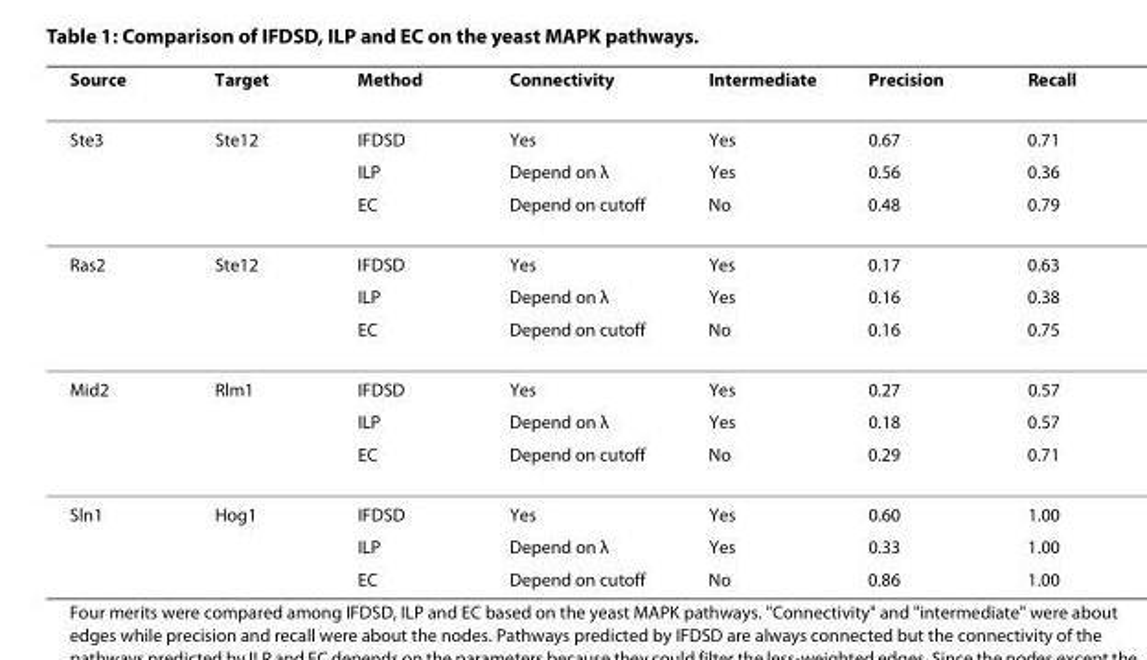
<table><thead><tr><td>Source</td><td>Target</td><td>Method</td><td>Connectivity</td><td>Intermediate</td><td>Precision</td><td>Recall</td></tr></thead><tbody><tr><td rowspan="3">Ste3</td><td>Ste12</td><td>IFDSD</td><td>Yes</td><td>Yes</td><td>0.67</td><td>0.71</td></tr><tr><td></td><td>ILP</td><td>Depend on λ</td><td>Yes</td><td>0.56</td><td>0.36</td></tr><tr><td></td><td>EC</td><td>Depend on cutoff</td><td>No</td><td>0.48</td><td>0.79</td></tr><tr><td rowspan="3">Ras2</td><td>Ste12</td><td>IFDSD</td><td>Yes</td><td>Yes</td><td>0.17</td><td>0.63</td></tr><tr><td></td><td>ILP</td><td>Depend on λ</td><td>Yes</td><td>0.16</td><td>0.38</td></tr><tr><td></td><td>EC</td><td>Depend on cutoff</td><td>No</td><td>0.16</td><td>0.75</td></tr><tr><td rowspan="3">Mid2</td><td>Rlm1</td><td>IFDSD</td><td>Yes</td><td>Yes</td><td>0.27</td><td>0.57</td></tr><tr><td></td><td>ILP</td><td>Depend on λ</td><td>Yes</td><td>0.18</td><td>0.57</td></tr><tr><td></td><td>EC</td><td>Depend on cutoff</td><td>No</td><td>0.29</td><td>0.71</td></tr><tr><td rowspan="3">Sln1</td><td>Hog1</td><td>IFDSD</td><td>Yes</td><td>Yes</td><td>0.60</td><td>1.00</td></tr><tr><td></td><td>ILP</td><td>Depend on λ</td><td>Yes</td><td>0.33</td><td>1.00</td></tr><tr><td></td><td>EC</td><td>Depend on cutoff</td><td>No</td><td>0.86</td><td>1.00</td></tr></tbody></table>